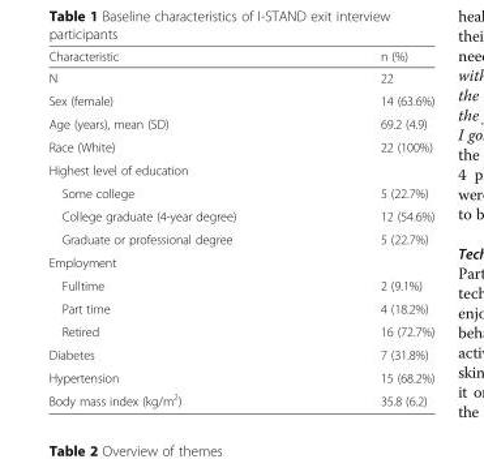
<table><thead><tr><td>Characteristic</td><td>n (%)</td></tr></thead><tbody><tr><td>N</td><td>22</td></tr><tr><td>Sex (female)</td><td>14 (63.6%)</td></tr><tr><td>Age (years), mean (SD)</td><td>69.2 (4.9)</td></tr><tr><td>Race (White)</td><td>22 (100%)</td></tr><tr><td colspan="2">Highest level of education</td></tr><tr><td>Some college</td><td>5 (22.7%)</td></tr><tr><td>College graduate (4-year degree)</td><td>12 (54.6%)</td></tr><tr><td>Graduate or professional degree</td><td>5 (22.7%)</td></tr><tr><td colspan="2">Employment</td></tr><tr><td>Fulltime</td><td>2 (9.1%)</td></tr><tr><td>Part time</td><td>4 (18.2%)</td></tr><tr><td>Retired</td><td>16 (72.7%)</td></tr><tr><td>Diabetes</td><td>7 (31.8%)</td></tr><tr><td>Hypertension</td><td>15 (68.2%)</td></tr><tr><td>Body mass index (kg/m<sup>2</sup>)</td><td>35.8 (6.2)</td></tr></tbody></table>